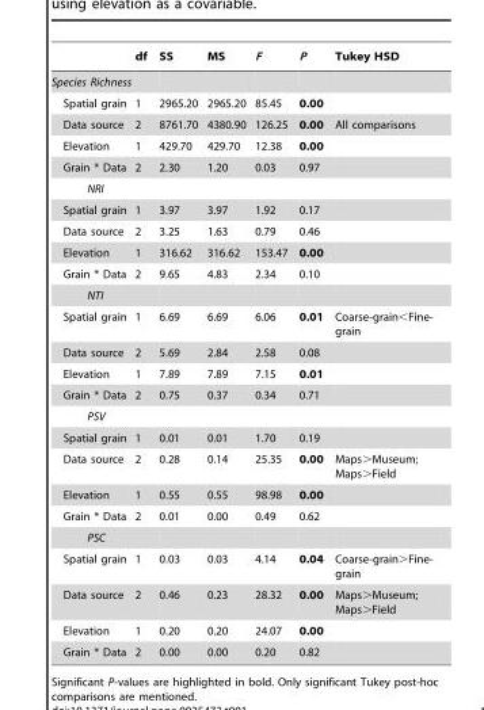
<table><thead><tr><td></td><td>df</td><td>SS</td><td>MS</td><td>F</td><td>P</td><td>Tukey HSD</td></tr></thead><tbody><tr><td colspan="7">Species Richness</td></tr><tr><td>Spatial grain</td><td>1</td><td>2965.20</td><td>2965.20</td><td>85.45</td><td>0.00</td><td></td></tr><tr><td>Data source</td><td>2</td><td>8761.70</td><td>4380.90</td><td>126.25</td><td>0.00</td><td>All comparisons</td></tr><tr><td>Elevation</td><td>1</td><td>429.70</td><td>429.70</td><td>12.38</td><td>0.00</td><td></td></tr><tr><td>Grain * Data</td><td>2</td><td>2.30</td><td>1.20</td><td>0.03</td><td>0.97</td><td></td></tr><tr><td colspan="7">NRI</td></tr><tr><td>Spatial grain</td><td>1</td><td>3.97</td><td>3.97</td><td>1.92</td><td>0.17</td><td></td></tr><tr><td>Data source</td><td>2</td><td>3.25</td><td>1.63</td><td>0.79</td><td>0.46</td><td></td></tr><tr><td>Elevation</td><td>1</td><td>316.62</td><td>316.62</td><td>153.47</td><td>0.00</td><td></td></tr><tr><td>Grain * Data</td><td>2</td><td>9.65</td><td>4.83</td><td>2.34</td><td>0.10</td><td></td></tr><tr><td colspan="7">NTI</td></tr><tr><td>Spatial grain</td><td>1</td><td>6.69</td><td>6.69</td><td>6.06</td><td>0.01</td><td>Coarse-grain&lt;Fine- grain</td></tr><tr><td>Data source</td><td>2</td><td>5.69</td><td>2.84</td><td>2.58</td><td>0.08</td><td></td></tr><tr><td>Elevation</td><td>1</td><td>7.89</td><td>7.89</td><td>7.15</td><td>0.01</td><td></td></tr><tr><td>Grain * Data</td><td>2</td><td>0.75</td><td>0.37</td><td>0.34</td><td>0.71</td><td></td></tr><tr><td colspan="7">PSV</td></tr><tr><td>Spatial grain</td><td>1</td><td>0.01</td><td>0.01</td><td>1.70</td><td>0.19</td><td></td></tr><tr><td>Data source</td><td>2</td><td>0.28</td><td>0.14</td><td>25.35</td><td>0.00</td><td>Maps&gt;Museum; Maps&gt;Field</td></tr><tr><td>Elevation</td><td>1</td><td>0.55</td><td>0.55</td><td>98.98</td><td>0.00</td><td></td></tr><tr><td>Grain * Data</td><td>2</td><td>0.01</td><td>0.00</td><td>0.49</td><td>0.62</td><td></td></tr><tr><td colspan="7">PSC</td></tr><tr><td>Spatial grain</td><td>1</td><td>0.03</td><td>0.03</td><td>4.14</td><td>0.04</td><td>Coarse-grain&gt;Fine- grain</td></tr><tr><td>Data source</td><td>2</td><td>0.46</td><td>0.23</td><td>28.32</td><td>0.00</td><td>Maps&gt;Museum; Maps&gt;Field</td></tr><tr><td>Elevation</td><td>1</td><td>0.20</td><td>0.20</td><td>24.07</td><td>0.00</td><td></td></tr><tr><td>Grain * Data</td><td>2</td><td>0.00</td><td>0.00</td><td>0.20</td><td>0.82</td><td></td></tr></tbody></table>